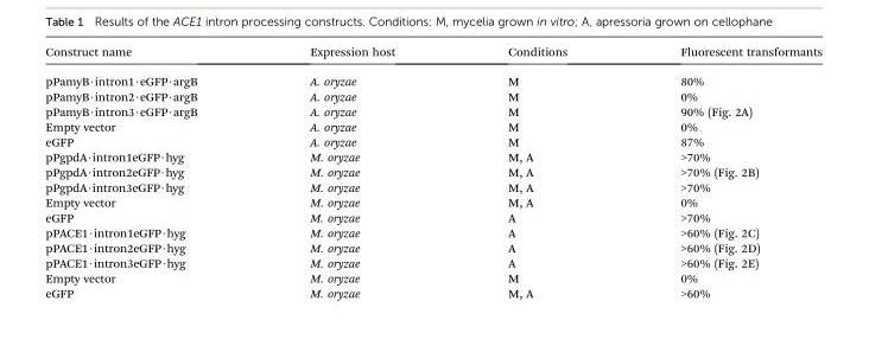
<table><thead><tr><td>Construct name</td><td>Expression host</td><td>Conditions</td><td>Fluorescent transformants</td></tr></thead><tbody><tr><td>pPamyB·intron1·eGFP·argB</td><td>A. oryzae</td><td>M</td><td>80%</td></tr><tr><td>pPamyB·intron2·eGFP·argB</td><td>A. oryzae</td><td>M</td><td>0%</td></tr><tr><td>pPamyB·intron3·eGFP·argB</td><td>A. oryzae</td><td>M</td><td>90% (Fig. 2A)</td></tr><tr><td>Empty vector</td><td>A. oryzae</td><td>M</td><td>0%</td></tr><tr><td>eGFP</td><td>A. oryzae</td><td>M</td><td>87%</td></tr><tr><td>pPgpdA·intron1eGFP·hyg</td><td>M. oryzae</td><td>M, A</td><td>&gt;70%</td></tr><tr><td>pPgpdA·intron2eGFP·hyg</td><td>M. oryzae</td><td>M, A</td><td>&gt;70% (Fig. 2B)</td></tr><tr><td>pPgpdA·intron3eGFP·hyg</td><td>M. oryzae</td><td>M, A</td><td>&gt;70%</td></tr><tr><td>Empty vector</td><td>M. oryzae</td><td>M, A</td><td>0%</td></tr><tr><td>eGFP</td><td>M. oryzae</td><td>A</td><td>&gt;70%</td></tr><tr><td>pPACE1·intron1eGFP·hyg</td><td>M. oryzae</td><td>A</td><td>&gt;60% (Fig. 2C)</td></tr><tr><td>pPACE1·intron2eGFP·hyg</td><td>M. oryzae</td><td>A</td><td>&gt;60% (Fig. 2D)</td></tr><tr><td>pPACE1·intron3eGFP·hyg</td><td>M. oryzae</td><td>A</td><td>&gt;60% (Fig. 2E)</td></tr><tr><td>Empty vector</td><td>M. oryzae</td><td>M</td><td>0%</td></tr><tr><td>eGFP</td><td>M. oryzae</td><td>M, A</td><td>&gt;60%</td></tr></tbody></table>